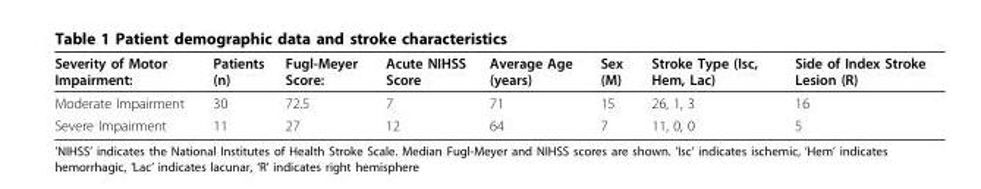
<table><thead><tr><td>Severity of Motor Impairment:</td><td>Patients (n)</td><td>Fugl-Meyer Score:</td><td>Acute NIHSS Score</td><td>Average Age (years)</td><td>Sex (M)</td><td>Stroke Type (Isc, Hem, Lac)</td><td>Side of Index Stroke Lesion (R)</td></tr></thead><tbody><tr><td>Moderate Impairment</td><td>30</td><td>72.5</td><td>7</td><td>71</td><td>15</td><td>26, 1, 3</td><td>16</td></tr><tr><td>Severe Impairment</td><td>11</td><td>27</td><td>12</td><td>64</td><td>7</td><td>11, 0, 0</td><td>5</td></tr></tbody></table>